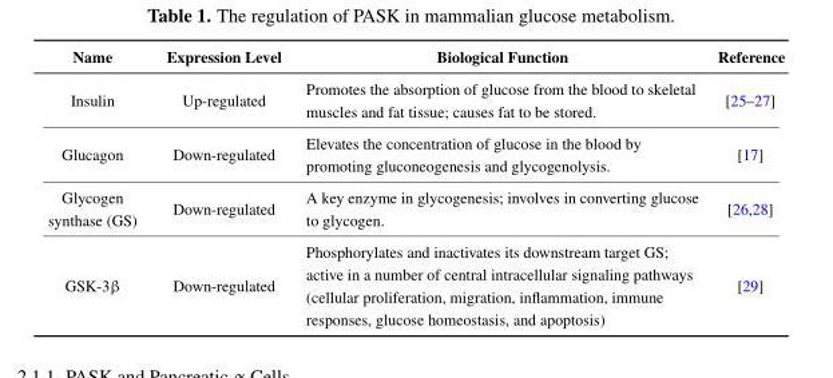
<table><thead><tr><td>Name</td><td>Expression Level</td><td>Biological Function</td><td>Reference</td></tr></thead><tbody><tr><td>Insulin</td><td>Up-regulated</td><td>Promotes the absorption of glucose from the blood to skeletal muscles and fat tissue; causes fat to be stored.</td><td>[25–27]</td></tr><tr><td>Glucagon</td><td>Down-regulated</td><td>Elevates the concentration of glucose in the blood by promoting gluconeogenesis and glycogenolysis.</td><td>[17]</td></tr><tr><td>Glycogen synthase (GS)</td><td>Down-regulated</td><td>A key enzyme in glycogenesis; involves in converting glucose to glycogen.</td><td>[26,28]</td></tr><tr><td>GSK-3β</td><td>Down-regulated</td><td>Phosphorylates and inactivates its downstream target GS; active in a number of central intracellular signaling pathways (cellular proliferation, migration, inflammation, immune responses, glucose homeostasis, and apoptosis)</td><td>[29]</td></tr></tbody></table>